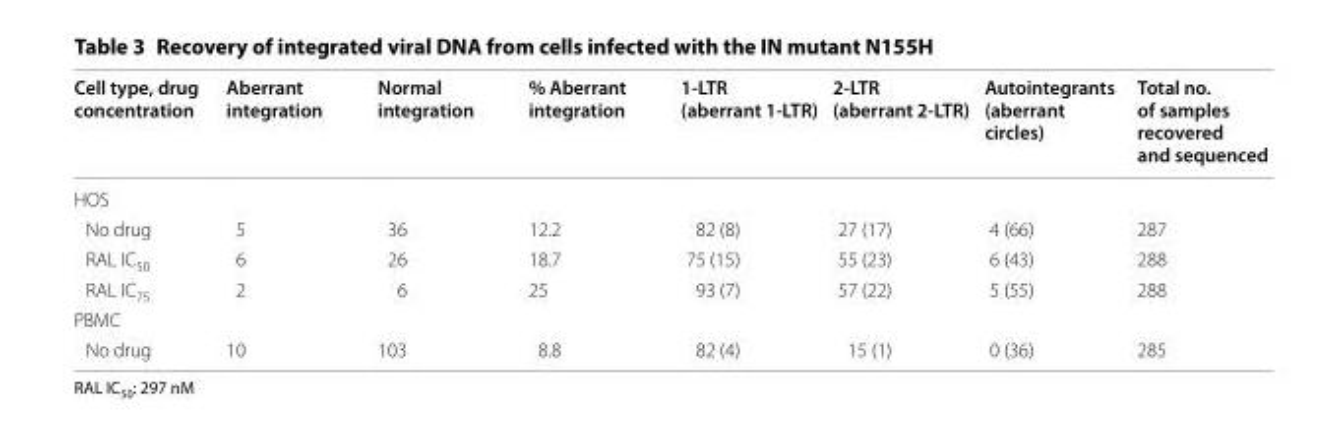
<table><thead><tr><td>Cell type, drug concentration</td><td>Aberrant integration</td><td>Normal integration</td><td>% Aberrant integration</td><td>1‑LTR (aberrant 1‑LTR)</td><td>2‑LTR (aberrant 2‑LTR)</td><td>Autointegrants (aberrant circles)</td><td>Total no. of samples recovered and sequenced</td></tr></thead><tbody><tr><td colspan="8">HOS</td></tr><tr><td>No drug</td><td>5</td><td>36</td><td>12.2</td><td>82 (8)</td><td>27 (17)</td><td>4 (66)</td><td>287</td></tr><tr><td>RAL IC<sub>50</sub></td><td>6</td><td>26</td><td>18.7</td><td>75 (15)</td><td>55 (23)</td><td>6 (43)</td><td>288</td></tr><tr><td>RAL IC<sub>75</sub></td><td>2</td><td>6</td><td>25</td><td>93 (7)</td><td>57 (22)</td><td>5 (55)</td><td>288</td></tr><tr><td colspan="8">PBMC</td></tr><tr><td>No drug</td><td>10</td><td>103</td><td>8.8</td><td>82 (4)</td><td>15 (1)</td><td>0 (36)</td><td>285</td></tr></tbody></table>